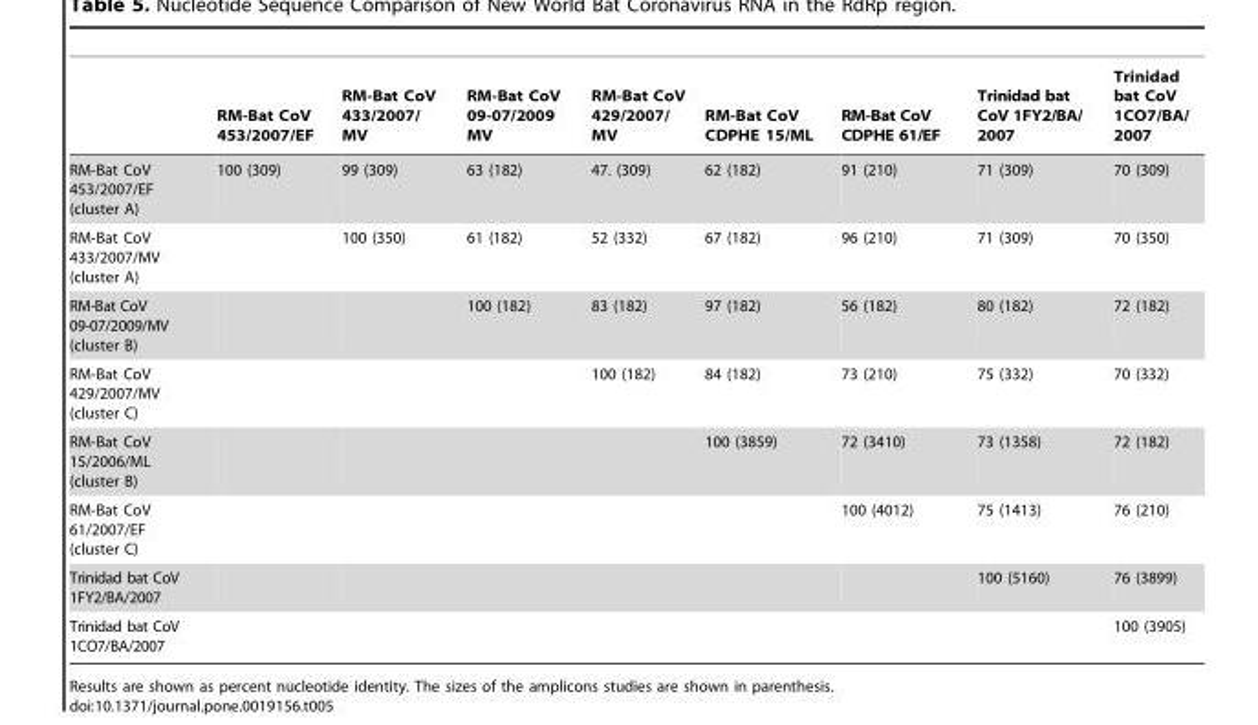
<table><thead><tr><td></td><td>RM-Bat CoV 453/2007/EF</td><td>RM-Bat CoV 433/2007/ MV</td><td>RM-Bat CoV 09-07/2009 MV</td><td>RM-Bat CoV 429/2007/ MV</td><td>RM-Bat CoV CDPHE 15/ML</td><td>RM-Bat CoV CDPHE 61/EF</td><td>Trinidad bat CoV 1FY2/BA/ 2007</td><td>Trinidad bat CoV 1CO7/BA/ 2007</td></tr></thead><tbody><tr><td>RM-Bat CoV 453/2007/EF (cluster A)</td><td>100 (309)</td><td>99 (309)</td><td>63 (182)</td><td>47. (309)</td><td>62 (182)</td><td>91 (210)</td><td>71 (309)</td><td>70 (309)</td></tr><tr><td>RM-Bat CoV 433/2007/MV (cluster A)</td><td></td><td>100 (350)</td><td>61 (182)</td><td>52 (332)</td><td>67 (182)</td><td>96 (210)</td><td>71 (309)</td><td>70 (350)</td></tr><tr><td>RM-Bat CoV 09-07/2009/MV (cluster B)</td><td></td><td></td><td>100 (182)</td><td>83 (182)</td><td>97 (182)</td><td>56 (182)</td><td>80 (182)</td><td>72 (182)</td></tr><tr><td>RM-Bat CoV 429/2007/MV (cluster C)</td><td></td><td></td><td></td><td>100 (182)</td><td>84 (182)</td><td>73 (210)</td><td>75 (332)</td><td>70 (332)</td></tr><tr><td>RM-Bat CoV 15/2006/ML (cluster B)</td><td></td><td></td><td></td><td></td><td>100 (3859)</td><td>72 (3410)</td><td>73 (1358)</td><td>72 (182)</td></tr><tr><td>RM-Bat CoV 61/2007/EF (cluster C)</td><td></td><td></td><td></td><td></td><td></td><td>100 (4012)</td><td>75 (1413)</td><td>76 (210)</td></tr><tr><td>Trinidad bat CoV 1FY2/BA/2007</td><td></td><td></td><td></td><td></td><td></td><td></td><td>100 (5160)</td><td>76 (3899)</td></tr><tr><td>Trinidad bat CoV 1CO7/BA/2007</td><td></td><td></td><td></td><td></td><td></td><td></td><td></td><td>100 (3905)</td></tr></tbody></table>